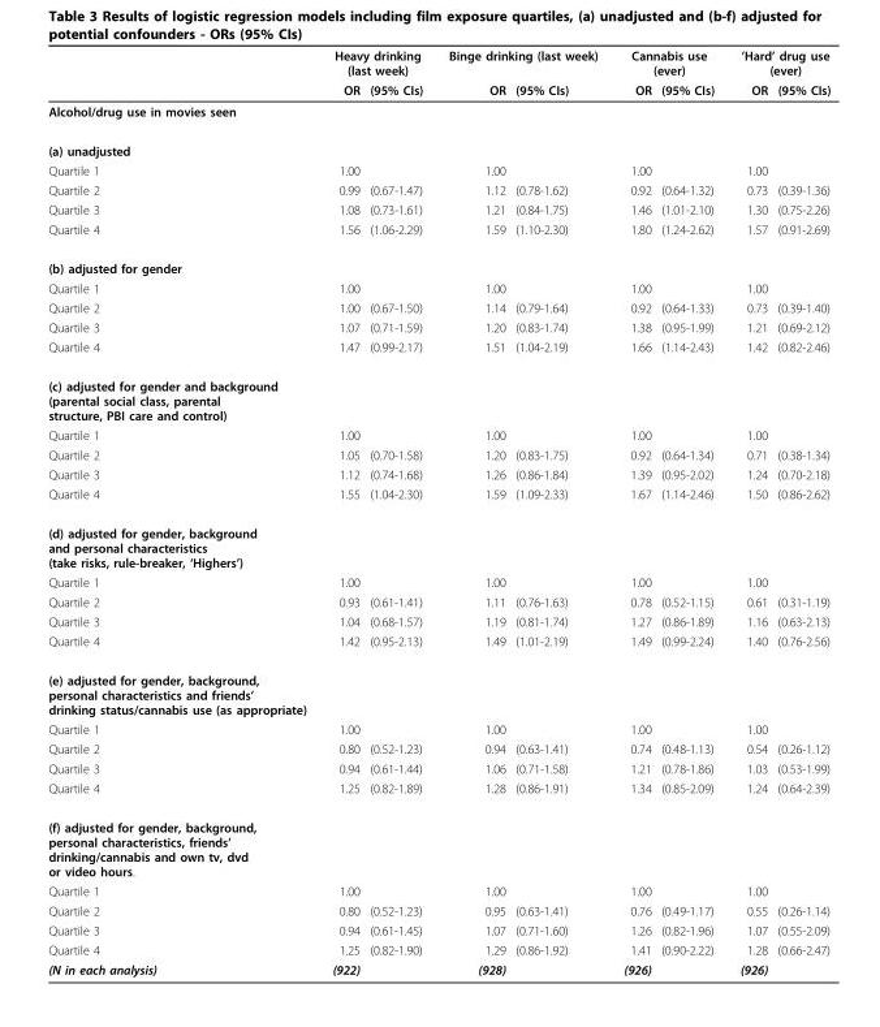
<table><thead><tr><td rowspan="2"></td><td colspan="2">Heavy drinking (last week)</td><td colspan="2">Binge drinking (last week)</td><td colspan="2">Cannabis use (ever)</td><td colspan="2">’Hard’ drug use (ever)</td></tr><tr><td>OR</td><td>(95% CIs)</td><td>OR</td><td>(95% CIs)</td><td>OR</td><td>(95% CIs)</td><td>OR</td><td>(95% CIs)</td></tr></thead><tbody><tr><td colspan="9">Alcohol/drug use in movies seen</td></tr><tr><td colspan="9">(a) unadjusted</td></tr><tr><td>Quartile 1</td><td>1.00</td><td></td><td>1.00</td><td></td><td>1.00</td><td></td><td>1.00</td><td></td></tr><tr><td>Quartile 2</td><td>0.99</td><td>(0.67-1.47)</td><td>1.12</td><td>(0.78-1.62)</td><td>0.92</td><td>(0.64-1.32)</td><td>0.73</td><td>(0.39-1.36)</td></tr><tr><td>Quartile 3</td><td>1.08</td><td>(0.73-1.61)</td><td>1.21</td><td>(0.84-1.75)</td><td>1.46</td><td>(1.01-2.10)</td><td>1.30</td><td>(0.75-2.26)</td></tr><tr><td>Quartile 4</td><td>1.56</td><td>(1.06-2.29)</td><td>1.59</td><td>(1.10-2.30)</td><td>1.80</td><td>(1.24-2.62)</td><td>1.57</td><td>(0.91-2.69)</td></tr><tr><td colspan="9">(b) adjusted for gender</td></tr><tr><td>Quartile 1</td><td>1.00</td><td></td><td>1.00</td><td></td><td>1.00</td><td></td><td>1.00</td><td></td></tr><tr><td>Quartile 2</td><td>1.00</td><td>(0.67-1.50)</td><td>1.14</td><td>(0.79-1.64)</td><td>0.92</td><td>(0.64-1.33)</td><td>0.73</td><td>(0.39-1.40)</td></tr><tr><td>Quartile 3</td><td>1.07</td><td>(0.71-1.59)</td><td>1.20</td><td>(0.83-1.74)</td><td>1.38</td><td>(0.95-1.99)</td><td>1.21</td><td>(0.69-2.12)</td></tr><tr><td>Quartile 4</td><td>1.47</td><td>(0.99-2.17)</td><td>1.51</td><td>(1.04-2.19)</td><td>1.66</td><td>(1.14-2.43)</td><td>1.42</td><td>(0.82-2.46)</td></tr><tr><td colspan="9">(c) adjusted for gender and background (parental social class, parental structure, PBI care and control)</td></tr><tr><td>Quartile 1</td><td>1.00</td><td></td><td>1.00</td><td></td><td>1.00</td><td></td><td>1.00</td><td></td></tr><tr><td>Quartile 2</td><td>1.05</td><td>(0.70-1.58)</td><td>1.20</td><td>(0.83-1.75)</td><td>0.92</td><td>(0.64-1.34)</td><td>0.71</td><td>(0.38-1.34)</td></tr><tr><td>Quartile 3</td><td>1.12</td><td>(0.74-1.68)</td><td>1.26</td><td>(0.86-1.84)</td><td>1.39</td><td>(0.95-2.02)</td><td>1.24</td><td>(0.70-2.18)</td></tr><tr><td>Quartile 4</td><td>1.55</td><td>(1.04-2.30)</td><td>1.59</td><td>(1.09-2.33)</td><td>1.67</td><td>(1.14-2.46)</td><td>1.50</td><td>(0.86-2.62)</td></tr><tr><td colspan="9">(d) adjusted for gender, background and personal characteristics (take risks, rule-breaker, ‘Highers’)</td></tr><tr><td>Quartile 1</td><td>1.00</td><td></td><td>1.00</td><td></td><td>1.00</td><td></td><td>1.00</td><td></td></tr><tr><td>Quartile 2</td><td>0.93</td><td>(0.61-1.41)</td><td>1.11</td><td>(0.76-1.63)</td><td>0.78</td><td>(0.52-1.15)</td><td>0.61</td><td>(0.31-1.19)</td></tr><tr><td>Quartile 3</td><td>1.04</td><td>(0.68-1.57)</td><td>1.19</td><td>(0.81-1.74)</td><td>1.27</td><td>(0.86-1.89)</td><td>1.16</td><td>(0.63-2.13)</td></tr><tr><td>Quartile 4</td><td>1.42</td><td>(0.95-2.13)</td><td>1.49</td><td>(1.01-2.19)</td><td>1.49</td><td>(0.99-2.24)</td><td>1.40</td><td>(0.76-2.56)</td></tr><tr><td colspan="9">(e) adjusted for gender, background, personal characteristics and friends’ drinking status/cannabis use (as appropriate)</td></tr><tr><td>Quartile 1</td><td>1.00</td><td></td><td>1.00</td><td></td><td>1.00</td><td></td><td>1.00</td><td></td></tr><tr><td>Quartile 2</td><td>0.80</td><td>(0.52-1.23)</td><td>0.94</td><td>(0.63-1.41)</td><td>0.74</td><td>(0.48-1.13)</td><td>0.54</td><td>(0.26-1.12)</td></tr><tr><td>Quartile 3</td><td>0.94</td><td>(0.61-1.44)</td><td>1.06</td><td>(0.71-1.58)</td><td>1.21</td><td>(0.78-1.86)</td><td>1.03</td><td>(0.53-1.99)</td></tr><tr><td>Quartile 4</td><td>1.25</td><td>(0.82-1.89)</td><td>1.28</td><td>(0.86-1.91)</td><td>1.34</td><td>(0.85-2.09)</td><td>1.24</td><td>(0.64-2.39)</td></tr><tr><td colspan="9">(f) adjusted for gender, background, personal characteristics, friends’ drinking/cannabis and own tv, dvd or video hours.</td></tr><tr><td>Quartile 1</td><td>1.00</td><td></td><td>1.00</td><td></td><td>1.00</td><td></td><td>1.00</td><td></td></tr><tr><td>Quartile 2</td><td>0.80</td><td>(0.52-1.23)</td><td>0.95</td><td>(0.63-1.41)</td><td>0.76</td><td>(0.49-1.17)</td><td>0.55</td><td>(0.26-1.14)</td></tr><tr><td>Quartile 3</td><td>0.94</td><td>(0.61-1.45)</td><td>1.07</td><td>(0.71-1.60)</td><td>1.26</td><td>(0.82-1.96)</td><td>1.07</td><td>(0.55-2.09)</td></tr><tr><td>Quartile 4</td><td>1.25</td><td>(0.82-1.90)</td><td>1.29</td><td>(0.86-1.92)</td><td>1.41</td><td>(0.90-2.22)</td><td>1.28</td><td>(0.66-2.47)</td></tr><tr><td>(N in each analysis)</td><td>(922)</td><td></td><td>(928)</td><td></td><td>(926)</td><td></td><td>(926)</td><td></td></tr></tbody></table>